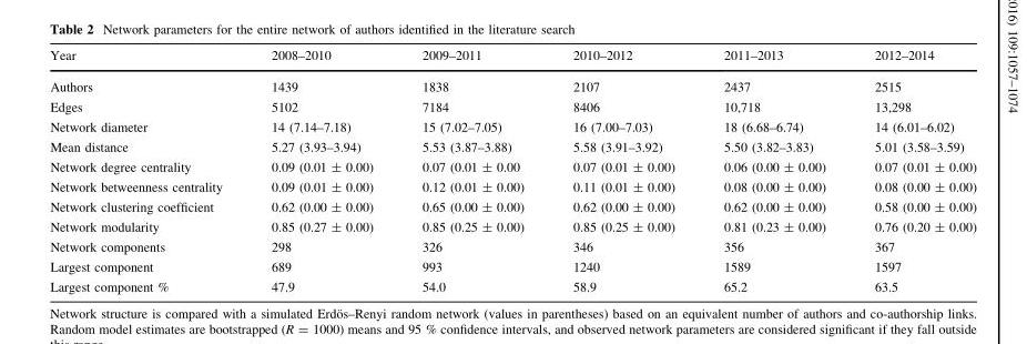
<table><thead><tr><td>Year</td><td>2008–2010</td><td>2009–2011</td><td>2010–2012</td><td>2011–2013</td><td>2012–2014</td></tr></thead><tbody><tr><td>Authors</td><td>1439</td><td>1838</td><td>2107</td><td>2437</td><td>2515</td></tr><tr><td>Edges</td><td>5102</td><td>7184</td><td>8406</td><td>10,718</td><td>13,298</td></tr><tr><td>Network diameter</td><td>14 (7.14–7.18)</td><td>15 (7.02–7.05)</td><td>16 (7.00–7.03)</td><td>18 (6.68–6.74)</td><td>14 (6.01–6.02)</td></tr><tr><td>Mean distance</td><td>5.27 (3.93–3.94)</td><td>5.53 (3.87–3.88)</td><td>5.58 (3.91–3.92)</td><td>5.50 (3.82–3.83)</td><td>5.01 (3.58–3.59)</td></tr><tr><td>Network degree centrality</td><td>0.09 (0.01 ± 0.00)</td><td>0.07 (0.01 ± 0.00</td><td>0.07 (0.01 ± 0.00)</td><td>0.06 (0.00 ± 0.00)</td><td>0.07 (0.01 ± 0.00)</td></tr><tr><td>Network betweenness centrality</td><td>0.09 (0.01 ± 0.00)</td><td>0.12 (0.01 ± 0.00)</td><td>0.11 (0.01 ± 0.00)</td><td>0.08 (0.00 ± 0.00)</td><td>0.08 (0.00 ± 0.00)</td></tr><tr><td>Network clustering coefficient</td><td>0.62 (0.00 ± 0.00)</td><td>0.65 (0.00 ± 0.00)</td><td>0.62 (0.00 ± 0.00)</td><td>0.62 (0.00 ± 0.00)</td><td>0.58 (0.00 ± 0.00)</td></tr><tr><td>Network modularity</td><td>0.85 (0.27 ± 0.00)</td><td>0.85 (0.25 ± 0.00)</td><td>0.85 (0.25 ± 0.00)</td><td>0.81 (0.23 ± 0.00)</td><td>0.76 (0.20 ± 0.00)</td></tr><tr><td>Network components</td><td>298</td><td>326</td><td>346</td><td>356</td><td>367</td></tr><tr><td>Largest component</td><td>689</td><td>993</td><td>1240</td><td>1589</td><td>1597</td></tr><tr><td>Largest component %</td><td>47.9</td><td>54.0</td><td>58.9</td><td>65.2</td><td>63.5</td></tr></tbody></table>